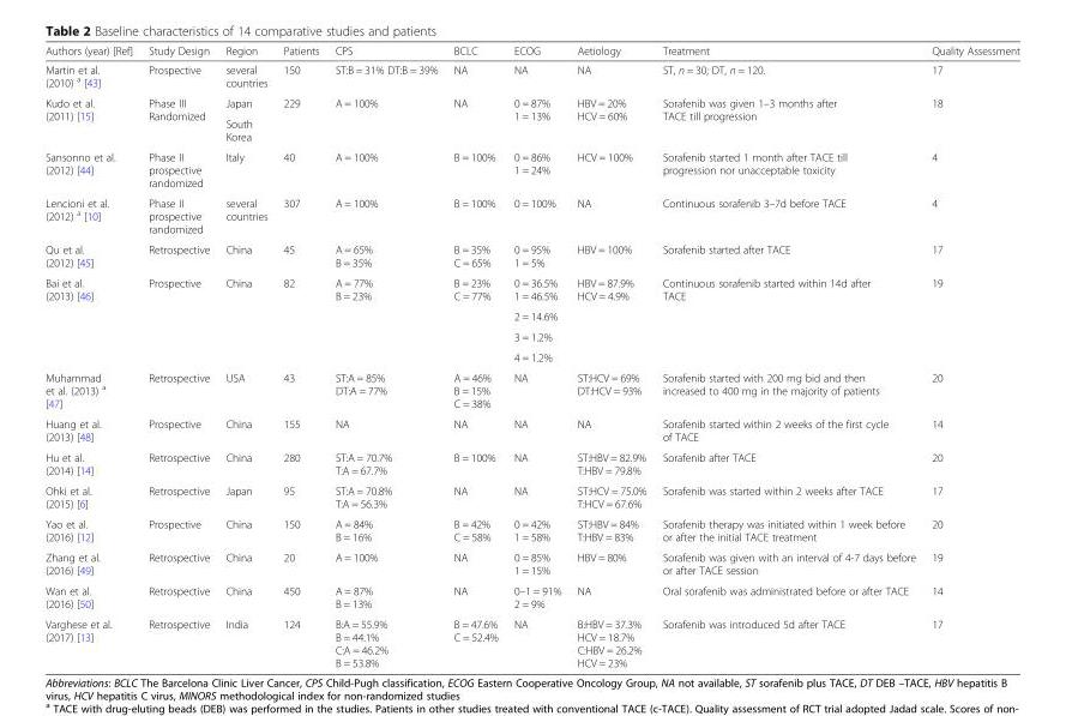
<table><thead><tr><td>Authors (year) [Ref]</td><td>Study Design</td><td>Region</td><td>Patients</td><td>CPS</td><td>BCLC</td><td>ECOG</td><td>Aetiology</td><td>Treatment</td><td>Quality Assessment</td></tr></thead><tbody><tr><td>Martin et al. (2010) <sup>a</sup> [43]</td><td>Prospective</td><td>several countries</td><td>150</td><td>ST:B = 31% DT:B = 39%</td><td>NA</td><td>NA</td><td>NA</td><td>ST, n = 30; DT, n = 120.</td><td>17</td></tr><tr><td rowspan="2">Kudo et al. (2011) [15]</td><td rowspan="2">Phase III Randomized</td><td>Japan</td><td rowspan="2">229</td><td rowspan="2">A = 100%</td><td rowspan="2">NA</td><td rowspan="2">0 = 87% 1 = 13%</td><td rowspan="2">HBV = 20% HCV = 60%</td><td rowspan="2">Sorafenib was given 1–3 months after TACE till progression</td><td rowspan="2">18</td></tr><tr><td>South Korea</td></tr><tr><td>Sansonno et al. (2012) [44]</td><td>Phase II prospective randomized</td><td>Italy</td><td>40</td><td>A = 100%</td><td>B = 100%</td><td>0 = 86% 1 = 24%</td><td>HCV = 100%</td><td>Sorafenib started 1 month after TACE till progression nor unacceptable toxicity</td><td>4</td></tr><tr><td>Lencioni et al. (2012) <sup>a</sup> [10]</td><td>Phase II prospective randomized</td><td>several countries</td><td>307</td><td>A = 100%</td><td>B = 100%</td><td>0 = 100%</td><td>NA</td><td>Continuous sorafenib 3–7d before TACE</td><td>4</td></tr><tr><td>Qu et al. (2012) [45]</td><td>Retrospective</td><td>China</td><td>45</td><td>A = 65% B = 35%</td><td>B = 35% C = 65%</td><td>0 = 95% 1 = 5%</td><td>HBV = 100%</td><td>Sorafenib started after TACE</td><td>17</td></tr><tr><td rowspan="4">Bai et al. (2013) [46]</td><td rowspan="4">Prospective</td><td rowspan="4">China</td><td rowspan="4">82</td><td rowspan="4">A = 77% B = 23%</td><td rowspan="4">B = 23% C = 77%</td><td>0 = 36.5% 1 = 46.5%</td><td rowspan="4">HBV = 87.9% HCV = 4.9%</td><td rowspan="4">Continuous sorafenib started within 14d after TACE</td><td rowspan="4">19</td></tr><tr><td>2 = 14.6%</td></tr><tr><td>3 = 1.2%</td></tr><tr><td>4 = 1.2%</td></tr><tr><td>Muhammad et al. (2013) <sup>a</sup> [47]</td><td>Retrospective</td><td>USA</td><td>43</td><td>ST:A = 85% DT:A = 77%</td><td>A = 46% B = 15% C = 38%</td><td>NA</td><td>ST:HCV = 69% DT:HCV = 93%</td><td>Sorafenib started with 200 mg bid and then increased to 400 mg in the majority of patients</td><td>20</td></tr><tr><td>Huang et al. (2013) [48]</td><td>Prospective</td><td>China</td><td>155</td><td>NA</td><td>NA</td><td>NA</td><td>NA</td><td>Sorafenib started within 2 weeks of the first cycle of TACE</td><td>14</td></tr><tr><td>Hu et al. (2014) [14]</td><td>Retrospective</td><td>China</td><td>280</td><td>ST:A = 70.7% T:A = 67.7%</td><td>B = 100%</td><td>NA</td><td>ST:HBV = 82.9% T:HBV = 79.8%</td><td>Sorafenib after TACE</td><td>20</td></tr><tr><td>Ohki et al. (2015) [6]</td><td>Retrospective</td><td>Japan</td><td>95</td><td>ST:A = 70.8% T:A = 56.3%</td><td>NA</td><td>NA</td><td>ST:HCV = 75.0% T:HCV = 67.6%</td><td>Sorafenib was started within 2 weeks after TACE</td><td>17</td></tr><tr><td>Yao et al. (2016) [12]</td><td>Prospective</td><td>China</td><td>150</td><td>A = 84% B = 16%</td><td>B = 42% C = 58%</td><td>0 = 42% 1 = 58%</td><td>ST:HBV = 84% T:HBV = 83%</td><td>Sorafenib therapy was initiated within 1 week before or after the initial TACE treatment</td><td>20</td></tr><tr><td>Zhang et al. (2016) [49]</td><td>Retrospective</td><td>China</td><td>20</td><td>A = 100%</td><td>NA</td><td>0 = 85% 1 = 15%</td><td>HBV = 80%</td><td>Sorafenib was given with an interval of 4-7 days before or after TACE session</td><td>19</td></tr><tr><td>Wan et al. (2016) [50]</td><td>Retrospective</td><td>China</td><td>450</td><td>A = 87% B = 13%</td><td>NA</td><td>0–1 = 91% 2 = 9%</td><td>NA</td><td>Oral sorafenib was administrated before or after TACE</td><td>14</td></tr><tr><td>Varghese et al. (2017) [13]</td><td>Retrospective</td><td>India</td><td>124</td><td>B:A = 55.9% B = 44.1% C:A = 46.2% B = 53.8%</td><td>B = 47.6% C = 52.4%</td><td>NA</td><td>B:HBV = 37.3% HCV = 18.7% C:HBV = 26.2% HCV = 23%</td><td>Sorafenib was introduced 5d after TACE</td><td>17</td></tr></tbody></table>